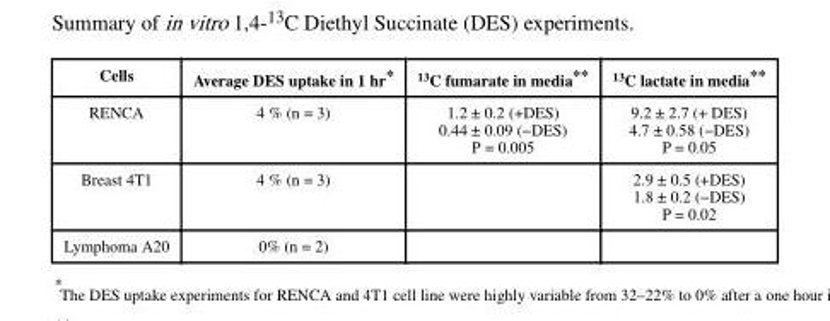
<table><thead><tr><td>Cells</td><td>Average DES uptake in 1 hr*</td><td><sup>13</sup>C fumarate in media**</td><td><sup>13</sup>C lactate in media**</td></tr></thead><tbody><tr><td>RENCA</td><td>4 % (n = 3)</td><td>1.2 ± 0.2 (+DES) 0.44 ± 0.09 (−DES) P = 0.005</td><td>9.2 ± 2.7 (+ DES) 4.7 ± 0.58 (−DES) P = 0.05</td></tr><tr><td>Breast 4T1</td><td>4 % (n = 3)</td><td></td><td>2.9 ± 0.5 (+DES) 1.8 ± 0.2 (−DES) P = 0.02</td></tr><tr><td>Lymphoma A20</td><td>0% (n = 2)</td><td></td><td></td></tr></tbody></table>